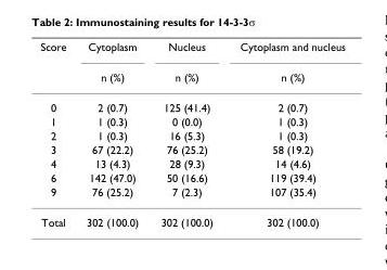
<table><thead><tr><td rowspan="2">Score</td><td rowspan="2">Cytoplasm n (%)</td><td rowspan="2">Nucleus n (%)</td><td rowspan="2">Cytoplasm and nucleus n (%)</td></tr><tr></tr></thead><tbody><tr><td>0</td><td>2 (0.7)</td><td>125 (41.4)</td><td>2 (0.7)</td></tr><tr><td>1</td><td>1 (0.3)</td><td>0 (0.0)</td><td>1 (0.3)</td></tr><tr><td>2</td><td>1 (0.3)</td><td>16 (5.3)</td><td>1 (0.3)</td></tr><tr><td>3</td><td>67 (22.2)</td><td>76 (25.2)</td><td>58 (19.2)</td></tr><tr><td>4</td><td>13 (4.3)</td><td>28 (9.3)</td><td>14 (4.6)</td></tr><tr><td>6</td><td>142 (47.0)</td><td>50 (16.6)</td><td>119 (39.4)</td></tr><tr><td>9</td><td>76 (25.2)</td><td>7 (2.3)</td><td>107 (35.4)</td></tr><tr><td>Total</td><td>302 (100.0)</td><td>302 (100.0)</td><td>302 (100.0)</td></tr></tbody></table>